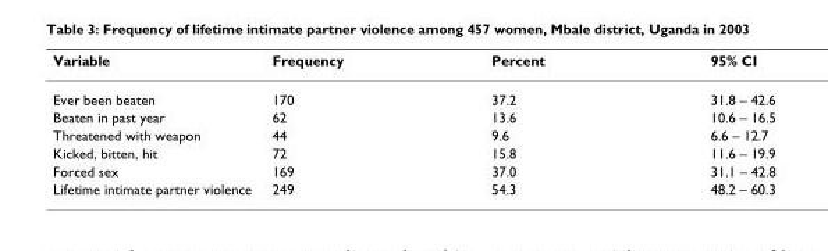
<table><thead><tr><td>Variable</td><td>Frequency</td><td>Percent</td><td>95% CI</td></tr></thead><tbody><tr><td>Ever been beaten</td><td>170</td><td>37.2</td><td>31.8 – 42.6</td></tr><tr><td>Beaten in past year</td><td>62</td><td>13.6</td><td>10.6 – 16.5</td></tr><tr><td>Threatened with weapon</td><td>44</td><td>9.6</td><td>6.6 – 12.7</td></tr><tr><td>Kicked, bitten, hit</td><td>72</td><td>15.8</td><td>11.6 – 19.9</td></tr><tr><td>Forced sex</td><td>169</td><td>37.0</td><td>31.1 – 42.8</td></tr><tr><td>Lifetime intimate partner violence</td><td>249</td><td>54.3</td><td>48.2 – 60.3</td></tr></tbody></table>